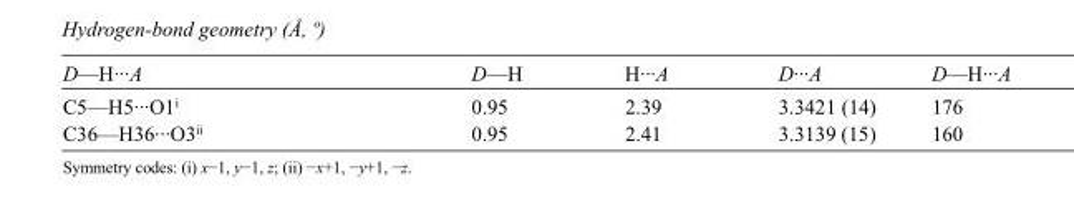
<table><tbody><tr><td>D—H···A</td><td>D—H</td><td>H···A</td><td>D···A</td><td>D—H···A</td></tr><tr><td>C5—H5···O1<sup>i</sup></td><td>0.95</td><td>2.39</td><td>3.3421 (14)</td><td>176</td></tr><tr><td>C36—H36···O3<sup>ii</sup></td><td>0.95</td><td>2.41</td><td>3.3139 (15)</td><td>160</td></tr></tbody></table>